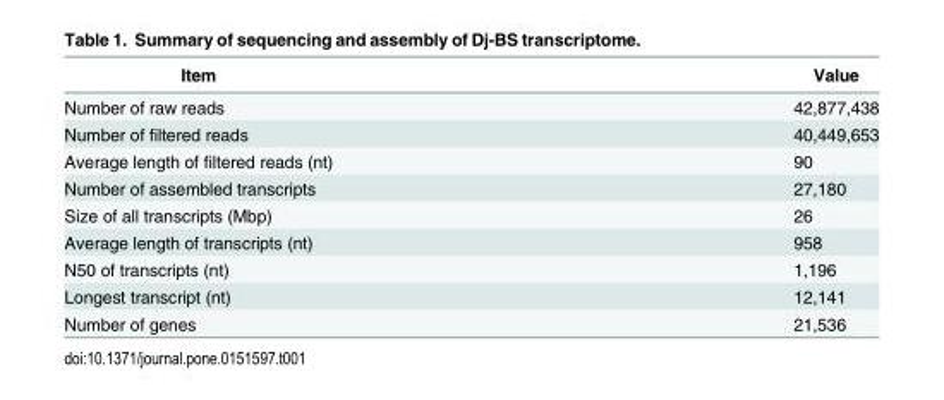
<table><thead><tr><td>Item</td><td>Value</td></tr></thead><tbody><tr><td>Number of raw reads</td><td>42,877,438</td></tr><tr><td>Number of filtered reads</td><td>40,449,653</td></tr><tr><td>Average length of filtered reads (nt)</td><td>90</td></tr><tr><td>Number of assembled transcripts</td><td>27,180</td></tr><tr><td>Size of all transcripts (Mbp)</td><td>26</td></tr><tr><td>Average length of transcripts (nt)</td><td>958</td></tr><tr><td>N50 of transcripts (nt)</td><td>1,196</td></tr><tr><td>Longest transcript (nt)</td><td>12,141</td></tr><tr><td>Number of genes</td><td>21,536</td></tr></tbody></table>